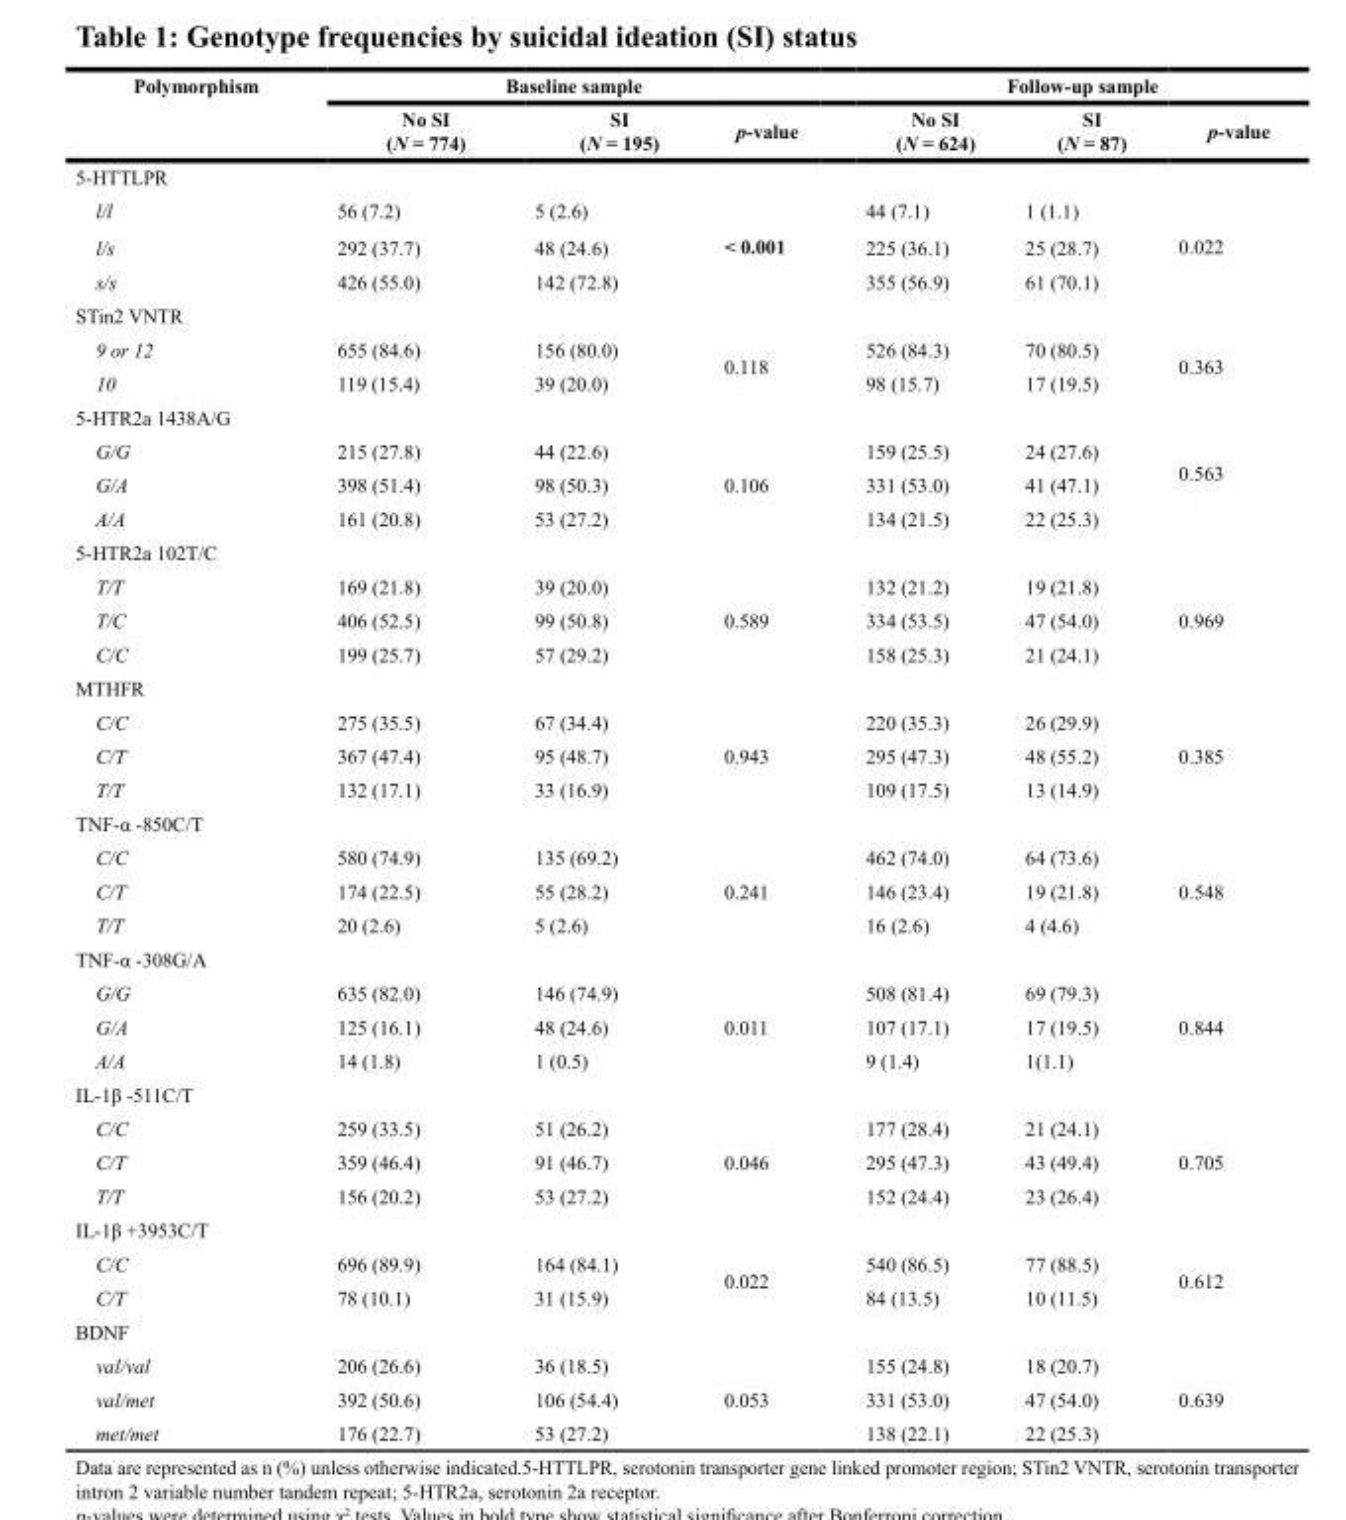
<table><thead><tr><td rowspan="2">Polymorphism</td><td colspan="3">Baseline sample</td><td colspan="3">Follow-up sample</td></tr><tr><td>No SI (N = 774)</td><td>SI (N = 195)</td><td>p-value</td><td>No SI (N = 624)</td><td>SI (N = 87)</td><td>p-value</td></tr></thead><tbody><tr><td colspan="7">5-HTTLPR</td></tr><tr><td>l/l</td><td>56 (7.2)</td><td>5 (2.6)</td><td rowspan="3">&lt; 0.001</td><td>44 (7.1)</td><td>1 (1.1)</td><td rowspan="2">0.022</td></tr><tr><td>l/s</td><td>292 (37.7)</td><td>48 (24.6)</td><td>225 (36.1)</td><td>25 (28.7)</td></tr><tr><td>s/s</td><td>426 (55.0)</td><td>142 (72.8)</td><td>355 (56.9)</td><td>61 (70.1)</td><td></td></tr><tr><td colspan="7">STin2 VNTR</td></tr><tr><td>9 or 12</td><td>655 (84.6)</td><td>156 (80.0)</td><td rowspan="2">0.118</td><td>526 (84.3)</td><td>70 (80.5)</td><td rowspan="2">0.363</td></tr><tr><td>10</td><td>119 (15.4)</td><td>39 (20.0)</td><td>98 (15.7)</td><td>17 (19.5)</td></tr><tr><td colspan="7">5-HTR2a 1438A/G</td></tr><tr><td>G/G</td><td>215 (27.8)</td><td>44 (22.6)</td><td rowspan="3">0.106</td><td>159 (25.5)</td><td>24 (27.6)</td><td rowspan="2">0.563</td></tr><tr><td>G/A</td><td>398 (51.4)</td><td>98 (50.3)</td><td>331 (53.0)</td><td>41 (47.1)</td></tr><tr><td>A/A</td><td>161 (20.8)</td><td>53 (27.2)</td><td>134 (21.5)</td><td>22 (25.3)</td><td></td></tr><tr><td colspan="7">5-HTR2a 102T/C</td></tr><tr><td>T/T</td><td>169 (21.8)</td><td>39 (20.0)</td><td rowspan="3">0.589</td><td>132 (21.2)</td><td>19 (21.8)</td><td rowspan="2">0.969</td></tr><tr><td>T/C</td><td>406 (52.5)</td><td>99 (50.8)</td><td>334 (53.5)</td><td>47 (54.0)</td></tr><tr><td>C/C</td><td>199 (25.7)</td><td>57 (29.2)</td><td>158 (25.3)</td><td>21 (24.1)</td><td></td></tr><tr><td colspan="7">MTHFR</td></tr><tr><td>C/C</td><td>275 (35.5)</td><td>67 (34.4)</td><td rowspan="3">0.943</td><td>220 (35.3)</td><td>26 (29.9)</td><td rowspan="2">0.385</td></tr><tr><td>C/T</td><td>367 (47.4)</td><td>95 (48.7)</td><td>295 (47.3)</td><td>48 (55.2)</td></tr><tr><td>T/T</td><td>132 (17.1)</td><td>33 (16.9)</td><td>109 (17.5)</td><td>13 (14.9)</td><td></td></tr><tr><td colspan="7">TNF-α -850C/T</td></tr><tr><td>C/C</td><td>580 (74.9)</td><td>135 (69.2)</td><td rowspan="3">0.241</td><td>462 (74.0)</td><td>64 (73.6)</td><td rowspan="2">0.548</td></tr><tr><td>C/T</td><td>174 (22.5)</td><td>55 (28.2)</td><td>146 (23.4)</td><td>19 (21.8)</td></tr><tr><td>T/T</td><td>20 (2.6)</td><td>5 (2.6)</td><td>16 (2.6)</td><td>4 (4.6)</td><td></td></tr><tr><td colspan="7">TNF-α -308G/A</td></tr><tr><td>G/G</td><td>635 (82.0)</td><td>146 (74.9)</td><td rowspan="3">0.011</td><td>508 (81.4)</td><td>69 (79.3)</td><td rowspan="3">0.844</td></tr><tr><td>G/A</td><td>125 (16.1)</td><td>48 (24.6)</td><td>107 (17.1)</td><td>17 (19.5)</td></tr><tr><td>A/A</td><td>14 (1.8)</td><td>1 (0.5)</td><td>9 (1.4)</td><td>1(1.1)</td></tr><tr><td colspan="7">IL-1β -511C/T</td></tr><tr><td>C/C</td><td>259 (33.5)</td><td>51 (26.2)</td><td rowspan="3">0.046</td><td>177 (28.4)</td><td>21 (24.1)</td><td rowspan="3">0.705</td></tr><tr><td>C/T</td><td>359 (46.4)</td><td>91 (46.7)</td><td>295 (47.3)</td><td>43 (49.4)</td></tr><tr><td>T/T</td><td>156 (20.2)</td><td>53 (27.2)</td><td>152 (24.4)</td><td>23 (26.4)</td></tr><tr><td colspan="7">IL-1β +3953C/T</td></tr><tr><td>C/C</td><td>696 (89.9)</td><td>164 (84.1)</td><td rowspan="2">0.022</td><td>540 (86.5)</td><td>77 (88.5)</td><td rowspan="2">0.612</td></tr><tr><td>C/T</td><td>78 (10.1)</td><td>31 (15.9)</td><td>84 (13.5)</td><td>10 (11.5)</td></tr><tr><td colspan="7">BDNF</td></tr><tr><td>val/val</td><td>206 (26.6)</td><td>36 (18.5)</td><td rowspan="3">0.053</td><td>155 (24.8)</td><td>18 (20.7)</td><td rowspan="3">0.639</td></tr><tr><td>val/met</td><td>392 (50.6)</td><td>106 (54.4)</td><td>331 (53.0)</td><td>47 (54.0)</td></tr><tr><td>met/met</td><td>176 (22.7)</td><td>53 (27.2)</td><td>138 (22.1)</td><td>22 (25.3)</td></tr></tbody></table>